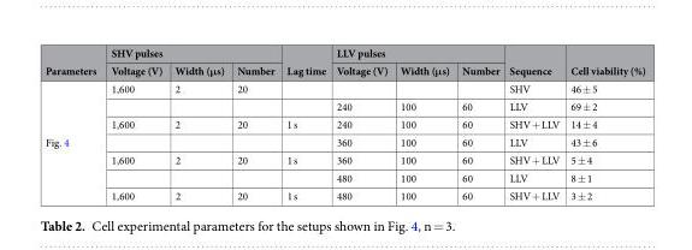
<table><thead><tr><td rowspan="2">Parameters</td><td colspan="3">SHV pulses</td><td rowspan="2">Lag time</td><td colspan="3">LLV pulses</td><td rowspan="2">Sequence</td><td rowspan="2">Cell viability (%)</td></tr><tr><td>Voltage (V)</td><td>Width (μs)</td><td>Number</td><td>Voltage (V)</td><td>Width (μs)</td><td>Number</td></tr></thead><tbody><tr><td rowspan="7">Fig. 4</td><td>1,600</td><td>2</td><td>20</td><td></td><td></td><td></td><td></td><td>SHV</td><td>46 ± 5</td></tr><tr><td></td><td></td><td></td><td></td><td>240</td><td>100</td><td>60</td><td>LLV</td><td>69 ± 2</td></tr><tr><td>1,600</td><td>2</td><td>20</td><td>1 s</td><td>240</td><td>100</td><td>60</td><td>SHV + LLV</td><td>14 ± 4</td></tr><tr><td></td><td></td><td></td><td></td><td>360</td><td>100</td><td>60</td><td>LLV</td><td>43 ± 6</td></tr><tr><td>1,600</td><td>2</td><td>20</td><td>1 s</td><td>360</td><td>100</td><td>60</td><td>SHV + LLV</td><td>5 ± 4</td></tr><tr><td></td><td></td><td></td><td></td><td>480</td><td>100</td><td>60</td><td>LLV</td><td>8 ± 1</td></tr><tr><td>1,600</td><td>2</td><td>20</td><td>1 s</td><td>480</td><td>100</td><td>60</td><td>SHV + LLV</td><td>3 ± 2</td></tr></tbody></table>